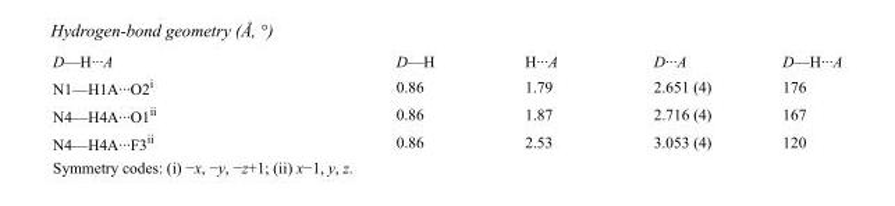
<table><tbody><tr><td>D—H···A</td><td>D—H</td><td>H···A</td><td>D···A</td><td>D—H···A</td></tr><tr><td>N1—H1A···O2<sup>i</sup></td><td>0.86</td><td>1.79</td><td>2.651 (4)</td><td>176</td></tr><tr><td>N4—H4A···O1<sup>ii</sup></td><td>0.86</td><td>1.87</td><td>2.716 (4)</td><td>167</td></tr><tr><td>N4—H4A···F3<sup>ii</sup></td><td>0.86</td><td>2.53</td><td>3.053 (4)</td><td>120</td></tr></tbody></table>